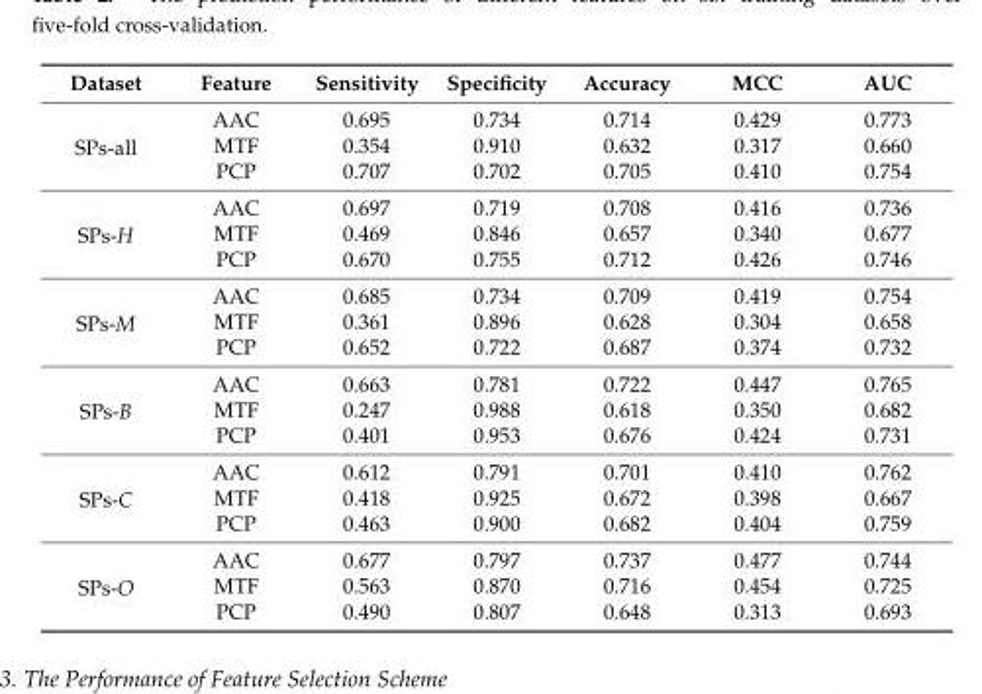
<table><thead><tr><td>Dataset</td><td>Feature</td><td>Sensitivity</td><td>Specificity</td><td>Accuracy</td><td>MCC</td><td>AUC</td></tr></thead><tbody><tr><td rowspan="3">SPs-all</td><td>AAC</td><td>0.695</td><td>0.734</td><td>0.714</td><td>0.429</td><td>0.773</td></tr><tr><td>MTF</td><td>0.354</td><td>0.910</td><td>0.632</td><td>0.317</td><td>0.660</td></tr><tr><td>PCP</td><td>0.707</td><td>0.702</td><td>0.705</td><td>0.410</td><td>0.754</td></tr><tr><td rowspan="3">SPs-H</td><td>AAC</td><td>0.697</td><td>0.719</td><td>0.708</td><td>0.416</td><td>0.736</td></tr><tr><td>MTF</td><td>0.469</td><td>0.846</td><td>0.657</td><td>0.340</td><td>0.677</td></tr><tr><td>PCP</td><td>0.670</td><td>0.755</td><td>0.712</td><td>0.426</td><td>0.746</td></tr><tr><td rowspan="3">SPs-M</td><td>AAC</td><td>0.685</td><td>0.734</td><td>0.709</td><td>0.419</td><td>0.754</td></tr><tr><td>MTF</td><td>0.361</td><td>0.896</td><td>0.628</td><td>0.304</td><td>0.658</td></tr><tr><td>PCP</td><td>0.652</td><td>0.722</td><td>0.687</td><td>0.374</td><td>0.732</td></tr><tr><td rowspan="3">SPs-B</td><td>AAC</td><td>0.663</td><td>0.781</td><td>0.722</td><td>0.447</td><td>0.765</td></tr><tr><td>MTF</td><td>0.247</td><td>0.988</td><td>0.618</td><td>0.350</td><td>0.682</td></tr><tr><td>PCP</td><td>0.401</td><td>0.953</td><td>0.676</td><td>0.424</td><td>0.731</td></tr><tr><td rowspan="3">SPs-C</td><td>AAC</td><td>0.612</td><td>0.791</td><td>0.701</td><td>0.410</td><td>0.762</td></tr><tr><td>MTF</td><td>0.418</td><td>0.925</td><td>0.672</td><td>0.398</td><td>0.667</td></tr><tr><td>PCP</td><td>0.463</td><td>0.900</td><td>0.682</td><td>0.404</td><td>0.759</td></tr><tr><td rowspan="3">SPs-O</td><td>AAC</td><td>0.677</td><td>0.797</td><td>0.737</td><td>0.477</td><td>0.744</td></tr><tr><td>MTF</td><td>0.563</td><td>0.870</td><td>0.716</td><td>0.454</td><td>0.725</td></tr><tr><td>PCP</td><td>0.490</td><td>0.807</td><td>0.648</td><td>0.313</td><td>0.693</td></tr></tbody></table>